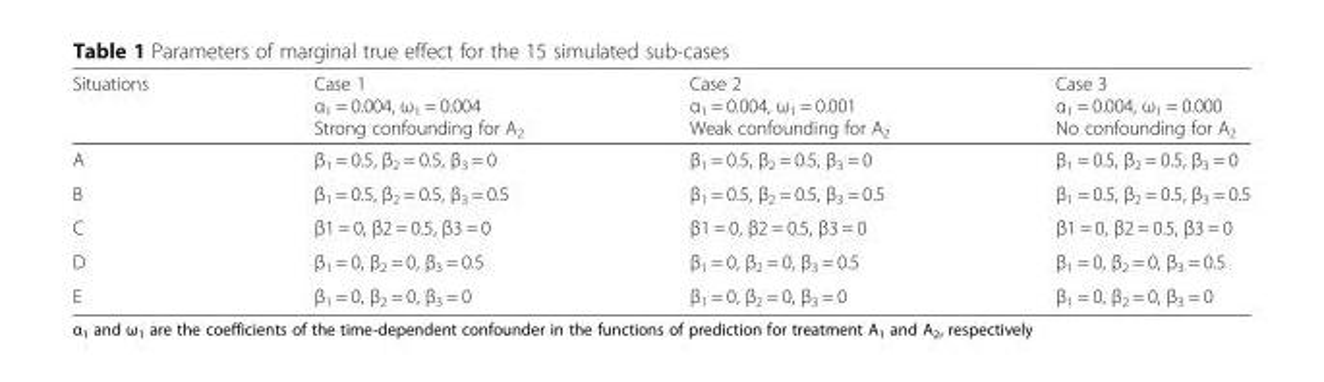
<table><thead><tr><td>Situations</td><td>Case 1 α<sub>1</sub> = 0.004, ω<sub>1</sub> = 0.004 Strong confounding for A<sub>2</sub></td><td>Case 2 α<sub>1</sub> = 0.004, ω<sub>1</sub> = 0.001 Weak confounding for A<sub>2</sub></td><td>Case 3 α<sub>1</sub> = 0.004, ω<sub>1</sub> = 0.000 No confounding for A<sub>2</sub></td></tr></thead><tbody><tr><td>A</td><td>β<sub>1</sub> = 0.5, β<sub>2</sub> = 0.5, β<sub>3</sub> = 0</td><td>β<sub>1</sub> = 0.5, β<sub>2</sub> = 0.5, β<sub>3</sub> = 0</td><td>β<sub>1</sub> = 0.5, β<sub>2</sub> = 0.5, β<sub>3</sub> = 0</td></tr><tr><td>B</td><td>β<sub>1</sub> = 0.5, β<sub>2</sub> = 0.5, β<sub>3</sub> = 0.5</td><td>β<sub>1</sub> = 0.5, β<sub>2</sub> = 0.5, β<sub>3</sub> = 0.5</td><td>β<sub>1</sub> = 0.5, β<sub>2</sub> = 0.5, β<sub>3</sub> = 0.5</td></tr><tr><td>C</td><td>β1 = 0, β2 = 0.5, β3 = 0</td><td>β1 = 0, β2 = 0.5, β3 = 0</td><td>β1 = 0, β2 = 0.5, β3 = 0</td></tr><tr><td>D</td><td>β<sub>1</sub> = 0, β<sub>2</sub> = 0, β<sub>3</sub> = 0.5</td><td>β<sub>1</sub> = 0, β<sub>2</sub> = 0, β<sub>3</sub> = 0.5</td><td>β<sub>1</sub> = 0, β<sub>2</sub> = 0, β<sub>3</sub> = 0.5</td></tr><tr><td>E</td><td>β<sub>1</sub> = 0, β<sub>2</sub> = 0, β<sub>3</sub> = 0</td><td>β<sub>1</sub> = 0, β<sub>2</sub> = 0, β<sub>3</sub> = 0</td><td>β<sub>1</sub> = 0, β<sub>2</sub> = 0, β<sub>3</sub> = 0</td></tr></tbody></table>